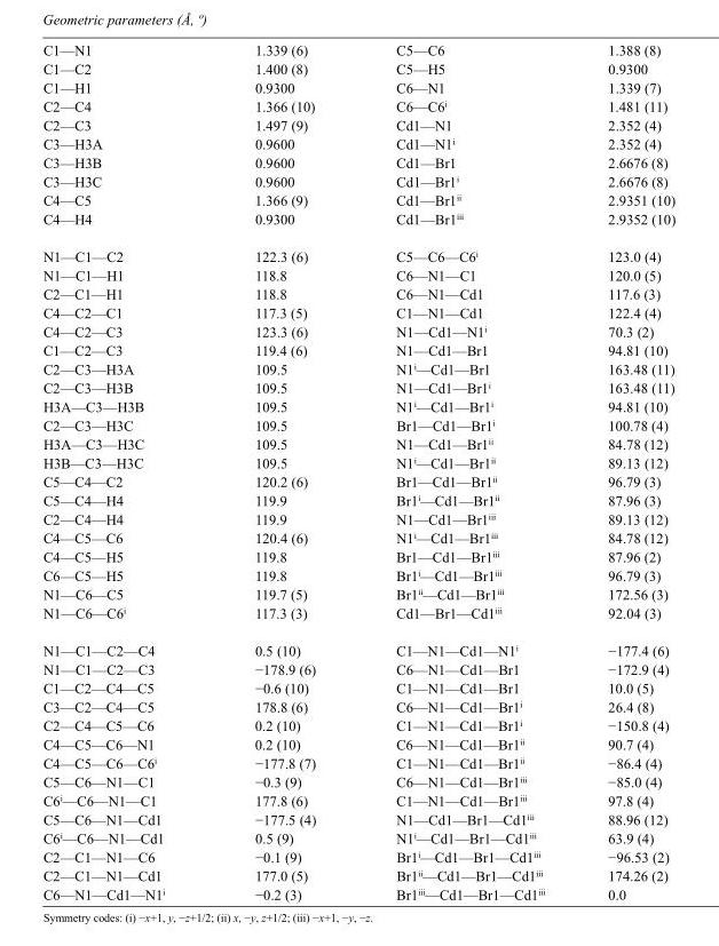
<table><tbody><tr><td>C1—N1</td><td>1.339 (6)</td><td>C5—C6</td><td>1.388 (8)</td></tr><tr><td>C1—C2</td><td>1.400 (8)</td><td>C5—H5</td><td>0.9300</td></tr><tr><td>C1—H1</td><td>0.9300</td><td>C6—N1</td><td>1.339 (7)</td></tr><tr><td>C2—C4</td><td>1.366 (10)</td><td>C6—C6<sup>i</sup></td><td>1.481 (11)</td></tr><tr><td>C2—C3</td><td>1.497 (9)</td><td>Cd1—N1</td><td>2.352 (4)</td></tr><tr><td>C3—H3A</td><td>0.9600</td><td>Cd1—N1<sup>i</sup></td><td>2.352 (4)</td></tr><tr><td>C3—H3B</td><td>0.9600</td><td>Cd1—Br1</td><td>2.6676 (8)</td></tr><tr><td>C3—H3C</td><td>0.9600</td><td>Cd1—Br1<sup>i</sup></td><td>2.6676 (8)</td></tr><tr><td>C4—C5</td><td>1.366 (9)</td><td>Cd1—Br1<sup>ii</sup></td><td>2.9351 (10)</td></tr><tr><td>C4—H4</td><td>0.9300</td><td>Cd1—Br1<sup>iii</sup></td><td>2.9352 (10)</td></tr><tr><td>N1—C1—C2</td><td>122.3 (6)</td><td>C5—C6—C6<sup>i</sup></td><td>123.0 (4)</td></tr><tr><td>N1—C1—H1</td><td>118.8</td><td>C6—N1—C1</td><td>120.0 (5)</td></tr><tr><td>C2—C1—H1</td><td>118.8</td><td>C6—N1—Cd1</td><td>117.6 (3)</td></tr><tr><td>C4—C2—C1</td><td>117.3 (5)</td><td>C1—N1—Cd1</td><td>122.4 (4)</td></tr><tr><td>C4—C2—C3</td><td>123.3 (6)</td><td>N1—Cd1—N1<sup>i</sup></td><td>70.3 (2)</td></tr><tr><td>C1—C2—C3</td><td>119.4 (6)</td><td>N1—Cd1—Br1</td><td>94.81 (10)</td></tr><tr><td>C2—C3—H3A</td><td>109.5</td><td>N1<sup>i</sup>—Cd1—Br1</td><td>163.48 (11)</td></tr><tr><td>C2—C3—H3B</td><td>109.5</td><td>N1—Cd1—Br1<sup>i</sup></td><td>163.48 (11)</td></tr><tr><td>H3A—C3—H3B</td><td>109.5</td><td>N1<sup>i</sup>—Cd1—Br1<sup>i</sup></td><td>94.81 (10)</td></tr><tr><td>C2—C3—H3C</td><td>109.5</td><td>Br1—Cd1—Br1<sup>i</sup></td><td>100.78 (4)</td></tr><tr><td>H3A—C3—H3C</td><td>109.5</td><td>N1—Cd1—Br1<sup>ii</sup></td><td>84.78 (12)</td></tr><tr><td>H3B—C3—H3C</td><td>109.5</td><td>N1<sup>i</sup>—Cd1—Br1<sup>ii</sup></td><td>89.13 (12)</td></tr><tr><td>C5—C4—C2</td><td>120.2 (6)</td><td>Br1—Cd1—Br1<sup>ii</sup></td><td>96.79 (3)</td></tr><tr><td>C5—C4—H4</td><td>119.9</td><td>Br1<sup>i</sup>—Cd1—Br1<sup>ii</sup></td><td>87.96 (3)</td></tr><tr><td>C2—C4—H4</td><td>119.9</td><td>N1—Cd1—Br1<sup>iii</sup></td><td>89.13 (12)</td></tr><tr><td>C4—C5—C6</td><td>120.4 (6)</td><td>N1<sup>i</sup>—Cd1—Br1<sup>iii</sup></td><td>84.78 (12)</td></tr><tr><td>C4—C5—H5</td><td>119.8</td><td>Br1—Cd1—Br1<sup>iii</sup></td><td>87.96 (2)</td></tr><tr><td>C6—C5—H5</td><td>119.8</td><td>Br1<sup>i</sup>—Cd1—Br1<sup>iii</sup></td><td>96.79 (3)</td></tr><tr><td>N1—C6—C5</td><td>119.7 (5)</td><td>Br1<sup>ii</sup>—Cd1—Br1<sup>iii</sup></td><td>172.56 (3)</td></tr><tr><td>N1—C6—C6<sup>i</sup></td><td>117.3 (3)</td><td>Cd1—Br1—Cd1<sup>iii</sup></td><td>92.04 (3)</td></tr><tr><td>N1—C1—C2—C4</td><td>0.5 (10)</td><td>C1—N1—Cd1—N1<sup>i</sup></td><td>−177.4 (6)</td></tr><tr><td>N1—C1—C2—C3</td><td>−178.9 (6)</td><td>C6—N1—Cd1—Br1</td><td>−172.9 (4)</td></tr><tr><td>C1—C2—C4—C5</td><td>−0.6 (10)</td><td>C1—N1—Cd1—Br1</td><td>10.0 (5)</td></tr><tr><td>C3—C2—C4—C5</td><td>178.8 (6)</td><td>C6—N1—Cd1—Br1<sup>i</sup></td><td>26.4 (8)</td></tr><tr><td>C2—C4—C5—C6</td><td>0.2 (10)</td><td>C1—N1—Cd1—Br1<sup>i</sup></td><td>−150.8 (4)</td></tr><tr><td>C4—C5—C6—N1</td><td>0.2 (10)</td><td>C6—N1—Cd1—Br1<sup>ii</sup></td><td>90.7 (4)</td></tr><tr><td>C4—C5—C6—C6<sup>i</sup></td><td>−177.8 (7)</td><td>C1—N1—Cd1—Br1<sup>ii</sup></td><td>−86.4 (4)</td></tr><tr><td>C5—C6—N1—C1</td><td>−0.3 (9)</td><td>C6—N1—Cd1—Br1<sup>iii</sup></td><td>−85.0 (4)</td></tr><tr><td>C6<sup>i</sup>—C6—N1—C1</td><td>177.8 (6)</td><td>C1—N1—Cd1—Br1<sup>iii</sup></td><td>97.8 (4)</td></tr><tr><td>C5—C6—N1—Cd1</td><td>−177.5 (4)</td><td>N1—Cd1—Br1—Cd1<sup>iii</sup></td><td>88.96 (12)</td></tr><tr><td>C6<sup>i</sup>—C6—N1—Cd1</td><td>0.5 (9)</td><td>N1<sup>i</sup>—Cd1—Br1—Cd1<sup>iii</sup></td><td>63.9 (4)</td></tr><tr><td>C2—C1—N1—C6</td><td>−0.1 (9)</td><td>Br1<sup>i</sup>—Cd1—Br1—Cd1<sup>iii</sup></td><td>−96.53 (2)</td></tr><tr><td>C2—C1—N1—Cd1</td><td>177.0 (5)</td><td>Br1<sup>ii</sup>—Cd1—Br1—Cd1<sup>iii</sup></td><td>174.26 (2)</td></tr><tr><td>C6—N1—Cd1—N1<sup>i</sup></td><td>−0.2 (3)</td><td>Br1<sup>iii</sup>—Cd1—Br1—Cd1<sup>iii</sup></td><td>0.0</td></tr></tbody></table>